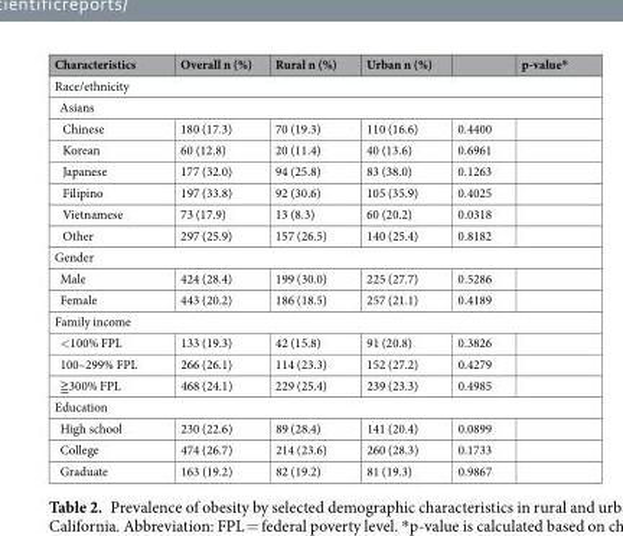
<table><thead><tr><td>Characteristics</td><td>Overall n (%)</td><td>Rural n (%)</td><td>Urban n (%)</td><td></td><td>p-value*</td></tr></thead><tbody><tr><td colspan="6">Race/ethnicity</td></tr><tr><td colspan="6">Asians</td></tr><tr><td>Chinese</td><td>180 (17.3)</td><td>70 (19.3)</td><td>110 (16.6)</td><td>0.4400</td><td></td></tr><tr><td>Korean</td><td>60 (12.8)</td><td>20 (11.4)</td><td>40 (13.6)</td><td>0.6961</td><td></td></tr><tr><td>Japanese</td><td>177 (32.0)</td><td>94 (25.8)</td><td>83 (38.0)</td><td>0.1263</td><td></td></tr><tr><td>Filipino</td><td>197 (33.8)</td><td>92 (30.6)</td><td>105 (35.9)</td><td>0.4025</td><td></td></tr><tr><td>Vietnamese</td><td>73 (17.9)</td><td>13 (8.3)</td><td>60 (20.2)</td><td>0.0318</td><td></td></tr><tr><td>Other</td><td>297 (25.9)</td><td>157 (26.5)</td><td>140 (25.4)</td><td>0.8182</td><td></td></tr><tr><td colspan="6">Gender</td></tr><tr><td>Male</td><td>424 (28.4)</td><td>199 (30.0)</td><td>225 (27.7)</td><td>0.5286</td><td></td></tr><tr><td>Female</td><td>443 (20.2)</td><td>186 (18.5)</td><td>257 (21.1)</td><td>0.4189</td><td></td></tr><tr><td colspan="6">Family income</td></tr><tr><td>&lt;100% FPL</td><td>133 (19.3)</td><td>42 (15.8)</td><td>91 (20.8)</td><td>0.3826</td><td></td></tr><tr><td>100–299% FPL</td><td>266 (26.1)</td><td>114 (23.3)</td><td>152 (27.2)</td><td>0.4279</td><td></td></tr><tr><td>≧300% FPL</td><td>468 (24.1)</td><td>229 (25.4)</td><td>239 (23.3)</td><td>0.4985</td><td></td></tr><tr><td colspan="6">Education</td></tr><tr><td>High school</td><td>230 (22.6)</td><td>89 (28.4)</td><td>141 (20.4)</td><td>0.0899</td><td></td></tr><tr><td>College</td><td>474 (26.7)</td><td>214 (23.6)</td><td>260 (28.3)</td><td>0.1733</td><td></td></tr><tr><td>Graduate</td><td>163 (19.2)</td><td>82 (19.2)</td><td>81 (19.3)</td><td>0.9867</td><td></td></tr></tbody></table>